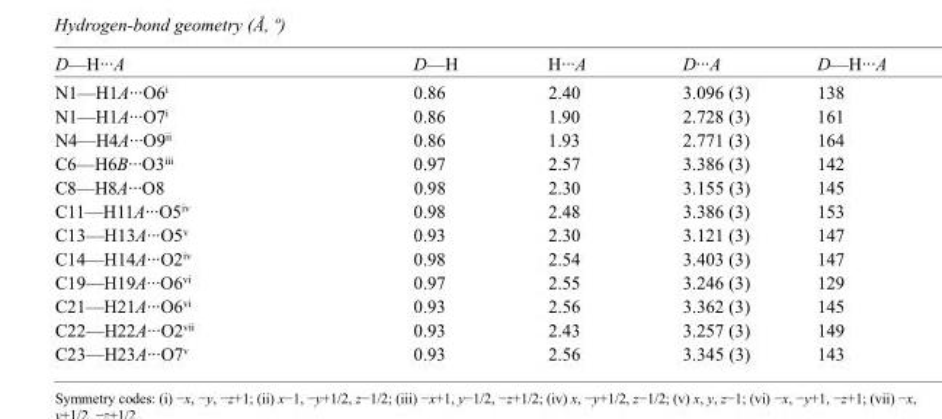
<table><tbody><tr><td>D—H···A</td><td>D—H</td><td>H···A</td><td>D···A</td><td>D—H···A</td></tr><tr><td>N1—H1A···O6<sup>i</sup></td><td>0.86</td><td>2.40</td><td>3.096 (3)</td><td>138</td></tr><tr><td>N1—H1A···O7<sup>i</sup></td><td>0.86</td><td>1.90</td><td>2.728 (3)</td><td>161</td></tr><tr><td>N4—H4A···O9<sup>ii</sup></td><td>0.86</td><td>1.93</td><td>2.771 (3)</td><td>164</td></tr><tr><td>C6—H6B···O3<sup>iii</sup></td><td>0.97</td><td>2.57</td><td>3.386 (3)</td><td>142</td></tr><tr><td>C8—H8A···O8</td><td>0.98</td><td>2.30</td><td>3.155 (3)</td><td>145</td></tr><tr><td>C11—H11A···O5<sup>iv</sup></td><td>0.98</td><td>2.48</td><td>3.386 (3)</td><td>153</td></tr><tr><td>C13—H13A···O5<sup>v</sup></td><td>0.93</td><td>2.30</td><td>3.121 (3)</td><td>147</td></tr><tr><td>C14—H14A···O2<sup>iv</sup></td><td>0.98</td><td>2.54</td><td>3.403 (3)</td><td>147</td></tr><tr><td>C19—H19A···O6<sup>vi</sup></td><td>0.97</td><td>2.55</td><td>3.246 (3)</td><td>129</td></tr><tr><td>C21—H21A···O6<sup>vi</sup></td><td>0.93</td><td>2.56</td><td>3.362 (3)</td><td>145</td></tr><tr><td>C22—H22A···O2<sup>vii</sup></td><td>0.93</td><td>2.43</td><td>3.257 (3)</td><td>149</td></tr><tr><td>C23—H23A···O7<sup>v</sup></td><td>0.93</td><td>2.56</td><td>3.345 (3)</td><td>143</td></tr></tbody></table>